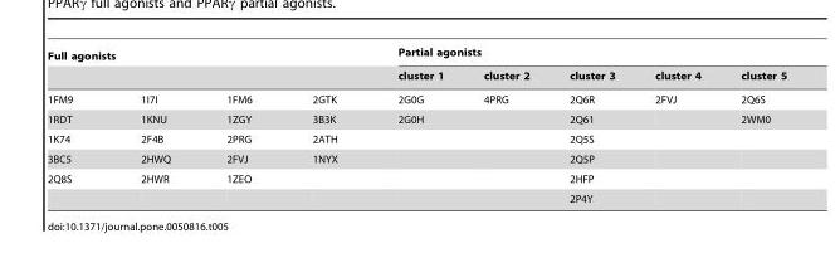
<table><thead><tr><td colspan="4">Full agonists</td><td colspan="5">Partial agonists</td></tr><tr><td></td><td></td><td></td><td></td><td>cluster 1</td><td>cluster 2</td><td>cluster 3</td><td>cluster 4</td><td>cluster 5</td></tr></thead><tbody><tr><td>1FM9</td><td>1I7I</td><td>1FM6</td><td>2GTK</td><td>2G0G</td><td>4PRG</td><td>2Q6R</td><td>2FVJ</td><td>2Q6S</td></tr><tr><td>1RDT</td><td>1KNU</td><td>1ZGY</td><td>3B3K</td><td>2G0H</td><td></td><td>2Q61</td><td></td><td>2WM0</td></tr><tr><td>1K74</td><td>2F4B</td><td>2PRG</td><td>2ATH</td><td></td><td></td><td>2Q5S</td><td></td><td></td></tr><tr><td>3BC5</td><td>2HWQ</td><td>2FVJ</td><td>1NYX</td><td></td><td></td><td>2Q5P</td><td></td><td></td></tr><tr><td rowspan="2">2Q8S</td><td>2HWR</td><td>1ZEO</td><td></td><td></td><td></td><td>2HFP</td><td></td><td></td></tr><tr><td></td><td></td><td></td><td></td><td></td><td>2P4Y</td><td></td><td></td></tr></tbody></table>